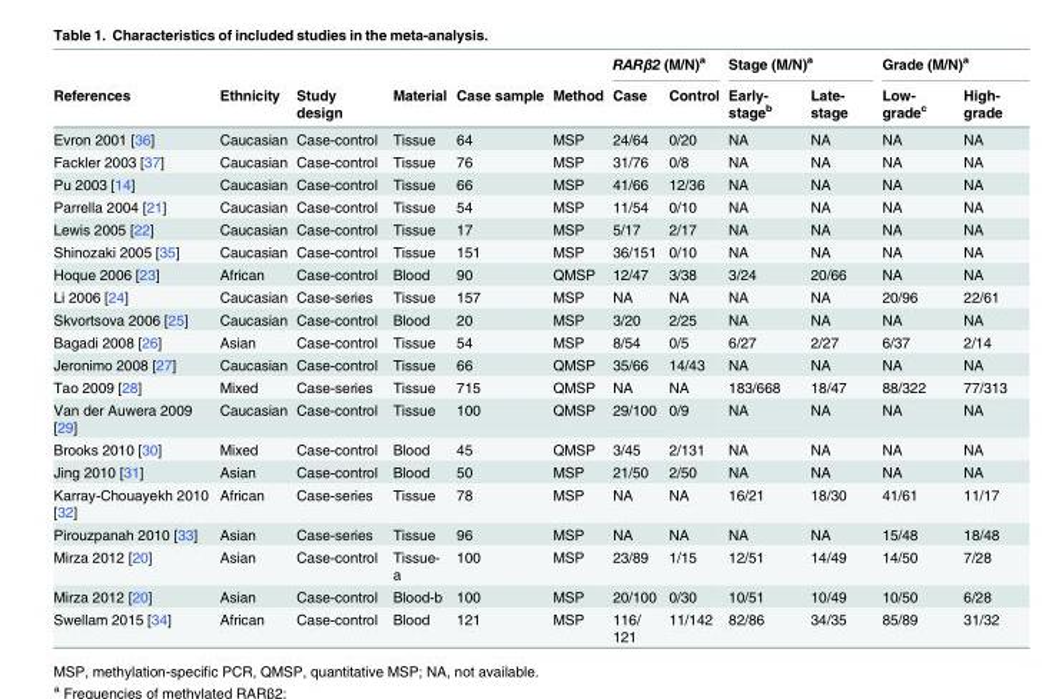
<table><thead><tr><td rowspan="2">References</td><td rowspan="2">Ethnicity</td><td rowspan="2">Study design</td><td rowspan="2">Material</td><td rowspan="2">Case sample</td><td rowspan="2">Method</td><td colspan="2">RARβ2 (M/N)<sup>a</sup></td><td colspan="2">Stage (M/N)<sup>a</sup></td><td colspan="2">Grade (M/N)<sup>a</sup></td></tr><tr><td>Case</td><td>Control</td><td>Early- stage<sup>b</sup></td><td>Late- stage</td><td>Low- grade<sup>c</sup></td><td>High- grade</td></tr></thead><tbody><tr><td>Evron 2001 [36]</td><td>Caucasian</td><td>Case-control</td><td>Tissue</td><td>64</td><td>MSP</td><td>24/64</td><td>0/20</td><td>NA</td><td>NA</td><td>NA</td><td>NA</td></tr><tr><td>Fackler 2003 [37]</td><td>Caucasian</td><td>Case-control</td><td>Tissue</td><td>76</td><td>MSP</td><td>31/76</td><td>0/8</td><td>NA</td><td>NA</td><td>NA</td><td>NA</td></tr><tr><td>Pu 2003 [14]</td><td>Caucasian</td><td>Case-control</td><td>Tissue</td><td>66</td><td>MSP</td><td>41/66</td><td>12/36</td><td>NA</td><td>NA</td><td>NA</td><td>NA</td></tr><tr><td>Parrella 2004 [21]</td><td>Caucasian</td><td>Case-control</td><td>Tissue</td><td>54</td><td>MSP</td><td>11/54</td><td>0/10</td><td>NA</td><td>NA</td><td>NA</td><td>NA</td></tr><tr><td>Lewis 2005 [22]</td><td>Caucasian</td><td>Case-control</td><td>Tissue</td><td>17</td><td>MSP</td><td>5/17</td><td>2/17</td><td>NA</td><td>NA</td><td>NA</td><td>NA</td></tr><tr><td>Shinozaki 2005 [35]</td><td>Caucasian</td><td>Case-control</td><td>Tissue</td><td>151</td><td>MSP</td><td>36/151</td><td>0/10</td><td>NA</td><td>NA</td><td>NA</td><td>NA</td></tr><tr><td>Hoque 2006 [23]</td><td>African</td><td>Case-control</td><td>Blood</td><td>90</td><td>QMSP</td><td>12/47</td><td>3/38</td><td>3/24</td><td>20/66</td><td>NA</td><td>NA</td></tr><tr><td>Li 2006 [24]</td><td>Caucasian</td><td>Case-series</td><td>Tissue</td><td>157</td><td>MSP</td><td>NA</td><td>NA</td><td>NA</td><td>NA</td><td>20/96</td><td>22/61</td></tr><tr><td>Skvortsova 2006 [25]</td><td>Caucasian</td><td>Case-control</td><td>Blood</td><td>20</td><td>MSP</td><td>3/20</td><td>2/25</td><td>NA</td><td>NA</td><td>NA</td><td>NA</td></tr><tr><td>Bagadi 2008 [26]</td><td>Asian</td><td>Case-control</td><td>Tissue</td><td>54</td><td>MSP</td><td>8/54</td><td>0/5</td><td>6/27</td><td>2/27</td><td>6/37</td><td>2/14</td></tr><tr><td>Jeronimo 2008 [27]</td><td>Caucasian</td><td>Case-control</td><td>Tissue</td><td>66</td><td>QMSP</td><td>35/66</td><td>14/43</td><td>NA</td><td>NA</td><td>NA</td><td>NA</td></tr><tr><td>Tao 2009 [28]</td><td>Mixed</td><td>Case-series</td><td>Tissue</td><td>715</td><td>QMSP</td><td>NA</td><td>NA</td><td>183/668</td><td>18/47</td><td>88/322</td><td>77/313</td></tr><tr><td>Van der Auwera 2009 [29]</td><td>Caucasian</td><td>Case-control</td><td>Tissue</td><td>100</td><td>QMSP</td><td>29/100</td><td>0/9</td><td>NA</td><td>NA</td><td>NA</td><td>NA</td></tr><tr><td>Brooks 2010 [30]</td><td>Mixed</td><td>Case-control</td><td>Blood</td><td>45</td><td>QMSP</td><td>3/45</td><td>2/131</td><td>NA</td><td>NA</td><td>NA</td><td>NA</td></tr><tr><td>Jing 2010 [31]</td><td>Asian</td><td>Case-control</td><td>Blood</td><td>50</td><td>MSP</td><td>21/50</td><td>2/50</td><td>NA</td><td>NA</td><td>NA</td><td>NA</td></tr><tr><td>Karray-Chouayekh 2010 [32]</td><td>African</td><td>Case-series</td><td>Tissue</td><td>78</td><td>MSP</td><td>NA</td><td>NA</td><td>16/21</td><td>18/30</td><td>41/61</td><td>11/17</td></tr><tr><td>Pirouzpanah 2010 [33]</td><td>Asian</td><td>Case-series</td><td>Tissue</td><td>96</td><td>MSP</td><td>NA</td><td>NA</td><td>NA</td><td>NA</td><td>15/48</td><td>18/48</td></tr><tr><td>Mirza 2012 [20]</td><td>Asian</td><td>Case-control</td><td>Tissue- a</td><td>100</td><td>MSP</td><td>23/89</td><td>1/15</td><td>12/51</td><td>14/49</td><td>14/50</td><td>7/28</td></tr><tr><td>Mirza 2012 [20]</td><td>Asian</td><td>Case-control</td><td>Blood-b</td><td>100</td><td>MSP</td><td>20/100</td><td>0/30</td><td>10/51</td><td>10/49</td><td>10/50</td><td>6/28</td></tr><tr><td>Swellam 2015 [34]</td><td>African</td><td>Case-control</td><td>Blood</td><td>121</td><td>MSP</td><td>116/ 121</td><td>11/142</td><td>82/86</td><td>34/35</td><td>85/89</td><td>31/32</td></tr></tbody></table>